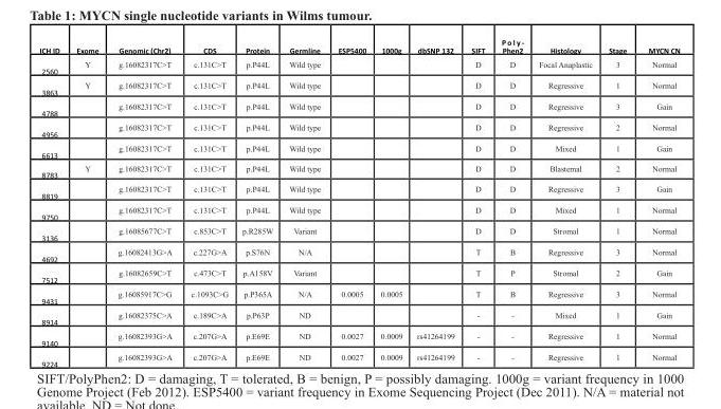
<table><thead><tr><td>ICH ID</td><td>Exome</td><td>Genomic (Chr2)</td><td>CDS</td><td>Protein</td><td>Germline</td><td>ESP5400</td><td>1000g</td><td>dbSNP 132</td><td>SIFT</td><td>P o l y - Phen2</td><td>Histology</td><td>Stage</td><td>MYCN CN</td></tr></thead><tbody><tr><td>2560</td><td>Y</td><td>g.16082317C&gt;T</td><td>c.131C&gt;T</td><td>p.P44L</td><td>Wild type</td><td></td><td></td><td></td><td>D</td><td>D</td><td>Focal Anaplastic</td><td>3</td><td>Normal</td></tr><tr><td>3863</td><td>Y</td><td>g.16082317C&gt;T</td><td>c.131C&gt;T</td><td>p.P44L</td><td>Wild type</td><td></td><td></td><td></td><td>D</td><td>D</td><td>Regressive</td><td>1</td><td>Normal</td></tr><tr><td>4788</td><td></td><td>g.16082317C&gt;T</td><td>c.131C&gt;T</td><td>p.P44L</td><td>Wild type</td><td></td><td></td><td></td><td>D</td><td>D</td><td>Regressive</td><td>3</td><td>Gain</td></tr><tr><td>4956</td><td></td><td>g.16082317C&gt;T</td><td>c.131C&gt;T</td><td>p.P44L</td><td>Wild type</td><td></td><td></td><td></td><td>D</td><td>D</td><td>Regressive</td><td>2</td><td>Normal</td></tr><tr><td>6613</td><td></td><td>g.16082317C&gt;T</td><td>c.131C&gt;T</td><td>p.P44L</td><td>Wild type</td><td></td><td></td><td></td><td>D</td><td>D</td><td>Mixed</td><td>1</td><td>Gain</td></tr><tr><td>8783</td><td>Y</td><td>g.16082317C&gt;T</td><td>c.131C&gt;T</td><td>p.P44L</td><td>Wild type</td><td></td><td></td><td></td><td>D</td><td>D</td><td>Blastemal</td><td>2</td><td>Normal</td></tr><tr><td>8819</td><td></td><td>g.16082317C&gt;T</td><td>c.131C&gt;T</td><td>p.P44L</td><td>Wild type</td><td></td><td></td><td></td><td>D</td><td>D</td><td>Regressive</td><td>3</td><td>Gain</td></tr><tr><td>9750</td><td></td><td>g.16082317C&gt;T</td><td>c.131C&gt;T</td><td>p.P44L</td><td>Wild type</td><td></td><td></td><td></td><td>D</td><td>D</td><td>Mixed</td><td>1</td><td>Normal</td></tr><tr><td>3136</td><td></td><td>g.16085677C&gt;T</td><td>c.853C&gt;T</td><td>p.R285W</td><td>Variant</td><td></td><td></td><td></td><td>D</td><td>D</td><td>Stromal</td><td>1</td><td>Normal</td></tr><tr><td>4692</td><td></td><td>g.16082413G&gt;A</td><td>c.227G&gt;A</td><td>p.S76N</td><td>N/A</td><td></td><td></td><td></td><td>T</td><td>B</td><td>Regressive</td><td>3</td><td>Normal</td></tr><tr><td>7512</td><td></td><td>g.16082659C&gt;T</td><td>c.473C&gt;T</td><td>p.A158V</td><td>Variant</td><td></td><td></td><td></td><td>T</td><td>P</td><td>Stromal</td><td>2</td><td>Gain</td></tr><tr><td>9431</td><td></td><td>g.16085917C&gt;G</td><td>c.1093C&gt;G</td><td>p.P365A</td><td>N/A</td><td>0.0005</td><td>0.0005</td><td></td><td>T</td><td>B</td><td>Regressive</td><td>3</td><td>Normal</td></tr><tr><td>8914</td><td></td><td>g.16082375C&gt;A</td><td>c.189C&gt;A</td><td>p.P63P</td><td>ND</td><td></td><td></td><td></td><td>-</td><td>-</td><td>Mixed</td><td>1</td><td>Gain</td></tr><tr><td>9140</td><td></td><td>g.16082393G&gt;A</td><td>c.207G&gt;A</td><td>p.E69E</td><td>ND</td><td>0.0027</td><td>0.0009</td><td>rs41264199</td><td>-</td><td>-</td><td>Regressive</td><td>1</td><td>Normal</td></tr><tr><td>9224</td><td></td><td>g.16082393G&gt;A</td><td>c.207G&gt;A</td><td>p.E69E</td><td>ND</td><td>0.0027</td><td>0.0009</td><td>rs41264199</td><td>-</td><td>-</td><td>Regressive</td><td>1</td><td>Normal</td></tr></tbody></table>